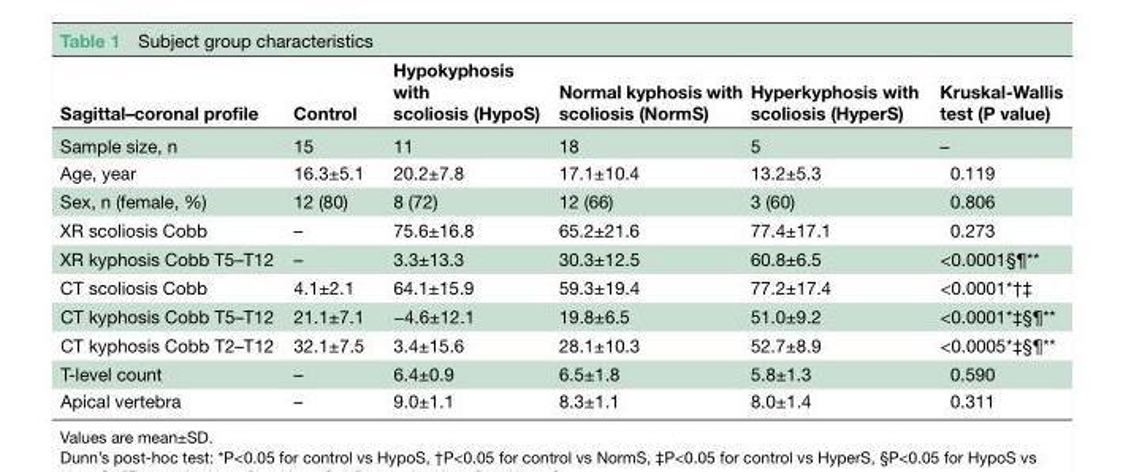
<table><thead><tr><td>Sagittal–coronal profile</td><td>Control</td><td>Hypokyphosis with scoliosis (HypoS)</td><td>Normal kyphosis with scoliosis (NormS)</td><td>Hyperkyphosis with scoliosis (HyperS)</td><td>Kruskal-Wallis test (P value)</td></tr></thead><tbody><tr><td>Sample size, n</td><td>15</td><td>11</td><td>18</td><td>5</td><td>–</td></tr><tr><td>Age, year</td><td>16.3±5.1</td><td>20.2±7.8</td><td>17.1±10.4</td><td>13.2±5.3</td><td>0.119</td></tr><tr><td>Sex, n (female, %)</td><td>12 (80)</td><td>8 (72)</td><td>12 (66)</td><td>3 (60)</td><td>0.806</td></tr><tr><td>XR scoliosis Cobb</td><td>–</td><td>75.6±16.8</td><td>65.2±21.6</td><td>77.4±17.1</td><td>0.273</td></tr><tr><td>XR kyphosis Cobb T5–T12</td><td>–</td><td>3.3±13.3</td><td>30.3±12.5</td><td>60.8±6.5</td><td>&lt;0.0001§¶**</td></tr><tr><td>CT scoliosis Cobb</td><td>4.1±2.1</td><td>64.1±15.9</td><td>59.3±19.4</td><td>77.2±17.4</td><td>&lt;0.0001*†‡</td></tr><tr><td>CT kyphosis Cobb T5–T12</td><td>21.1±7.1</td><td>−4.6±12.1</td><td>19.8±6.5</td><td>51.0±9.2</td><td>&lt;0.0001*‡§¶**</td></tr><tr><td>CT kyphosis Cobb T2–T12</td><td>32.1±7.5</td><td>3.4±15.6</td><td>28.1±10.3</td><td>52.7±8.9</td><td>&lt;0.0005*‡§¶**</td></tr><tr><td>T-level count</td><td>–</td><td>6.4±0.9</td><td>6.5±1.8</td><td>5.8±1.3</td><td>0.590</td></tr><tr><td>Apical vertebra</td><td>–</td><td>9.0±1.1</td><td>8.3±1.1</td><td>8.0±1.4</td><td>0.311</td></tr></tbody></table>